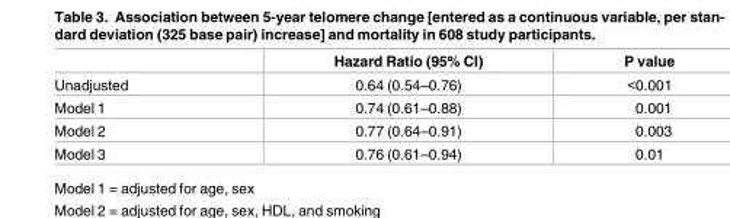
<table><thead><tr><td></td><td>Hazard Ratio (95% CI)</td><td>P value</td></tr></thead><tbody><tr><td>Unadjusted</td><td>0.64 (0.54–0.76)</td><td>&lt;0.001</td></tr><tr><td>Model 1</td><td>0.74 (0.61–0.88)</td><td>0.001</td></tr><tr><td>Model 2</td><td>0.77 (0.64–0.91)</td><td>0.003</td></tr><tr><td>Model 3</td><td>0.76 (0.61–0.94)</td><td>0.01</td></tr></tbody></table>